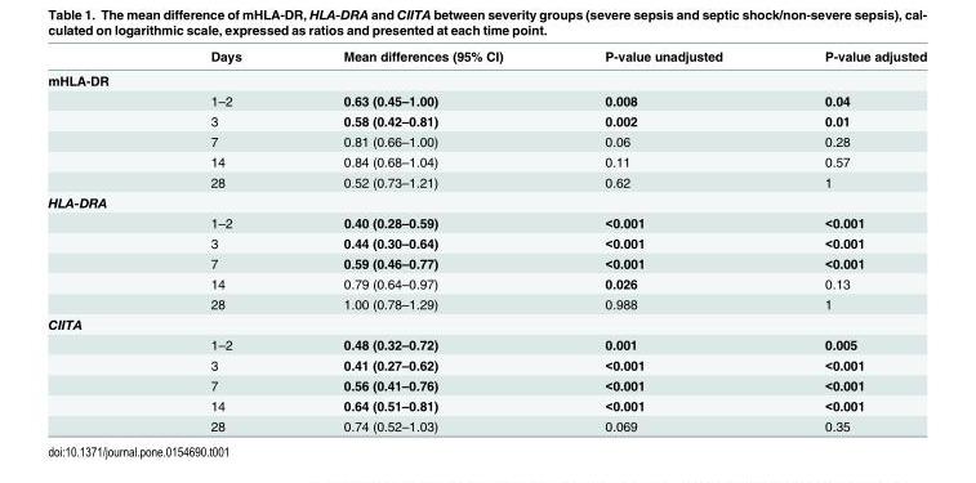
<table><thead><tr><td></td><td>Days</td><td>Mean differences (95% CI)</td><td>P-value unadjusted</td><td>P-value adjusted</td></tr></thead><tbody><tr><td colspan="5">mHLA-DR</td></tr><tr><td></td><td>1–2</td><td>0.63 (0.45–1.00)</td><td>0.008</td><td>0.04</td></tr><tr><td></td><td>3</td><td>0.58 (0.42–0.81)</td><td>0.002</td><td>0.01</td></tr><tr><td></td><td>7</td><td>0.81 (0.66–1.00)</td><td>0.06</td><td>0.28</td></tr><tr><td></td><td>14</td><td>0.84 (0.68–1.04)</td><td>0.11</td><td>0.57</td></tr><tr><td></td><td>28</td><td>0.52 (0.73–1.21)</td><td>0.62</td><td>1</td></tr><tr><td colspan="5">HLA-DRA</td></tr><tr><td></td><td>1–2</td><td>0.40 (0.28–0.59)</td><td>&lt;0.001</td><td>&lt;0.001</td></tr><tr><td></td><td>3</td><td>0.44 (0.30–0.64)</td><td>&lt;0.001</td><td>&lt;0.001</td></tr><tr><td></td><td>7</td><td>0.59 (0.46–0.77)</td><td>&lt;0.001</td><td>&lt;0.001</td></tr><tr><td></td><td>14</td><td>0.79 (0.64–0.97)</td><td>0.026</td><td>0.13</td></tr><tr><td></td><td>28</td><td>1.00 (0.78–1.29)</td><td>0.988</td><td>1</td></tr><tr><td colspan="5">CIITA</td></tr><tr><td></td><td>1–2</td><td>0.48 (0.32–0.72)</td><td>0.001</td><td>0.005</td></tr><tr><td></td><td>3</td><td>0.41 (0.27–0.62)</td><td>&lt;0.001</td><td>&lt;0.001</td></tr><tr><td></td><td>7</td><td>0.56 (0.41–0.76)</td><td>&lt;0.001</td><td>&lt;0.001</td></tr><tr><td></td><td>14</td><td>0.64 (0.51–0.81)</td><td>&lt;0.001</td><td>&lt;0.001</td></tr><tr><td></td><td>28</td><td>0.74 (0.52–1.03)</td><td>0.069</td><td>0.35</td></tr></tbody></table>